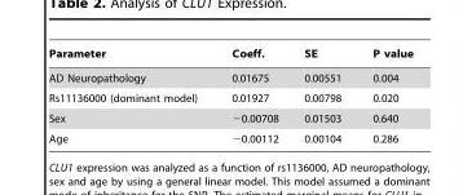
<table><thead><tr><td>Parameter</td><td>Coeff.</td><td>SE</td><td>P value</td></tr></thead><tbody><tr><td>AD Neuropathology</td><td>0.01675</td><td>0.00551</td><td>0.004</td></tr><tr><td>Rs11136000 (dominant model)</td><td>0.01927</td><td>0.00798</td><td>0.020</td></tr><tr><td>Sex</td><td>−0.00708</td><td>0.01503</td><td>0.640</td></tr><tr><td>Age</td><td>−0.00112</td><td>0.00104</td><td>0.286</td></tr></tbody></table>